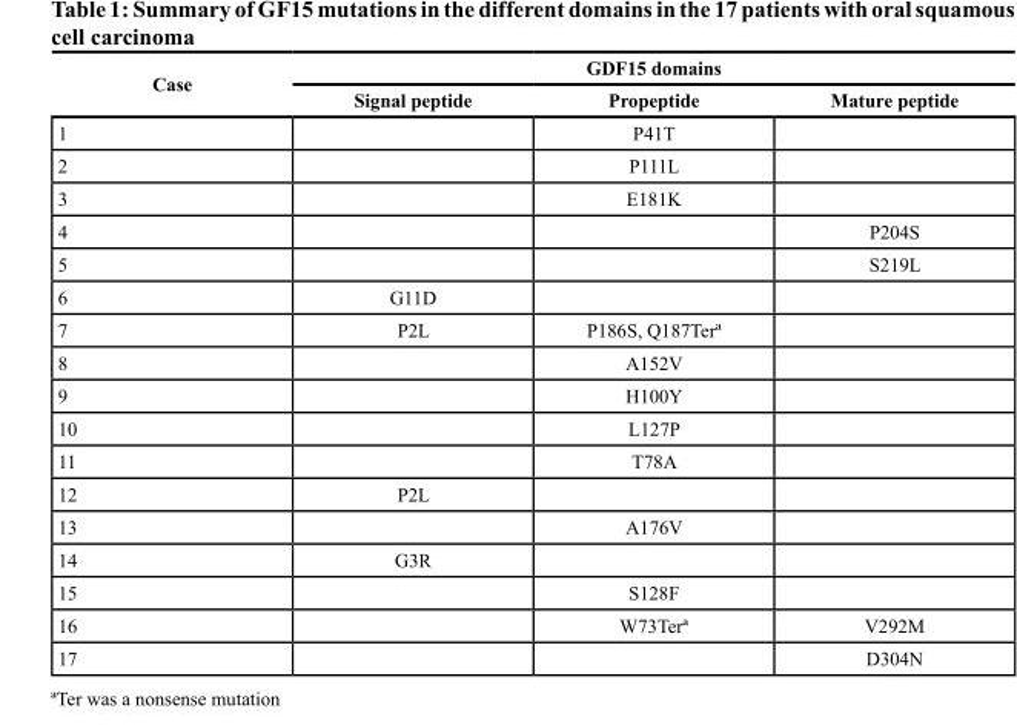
<table><thead><tr><td rowspan="2">Case</td><td colspan="3">GDF15 domains</td></tr><tr><td>Signal peptide</td><td>Propeptide</td><td>Mature peptide</td></tr></thead><tbody><tr><td>1</td><td></td><td>P41T</td><td></td></tr><tr><td>2</td><td></td><td>P111L</td><td></td></tr><tr><td>3</td><td></td><td>E181K</td><td></td></tr><tr><td>4</td><td></td><td></td><td>P204S</td></tr><tr><td>5</td><td></td><td></td><td>S219L</td></tr><tr><td>6</td><td>G11D</td><td></td><td></td></tr><tr><td>7</td><td>P2L</td><td>P186S, Q187Ter<sup>ª</sup></td><td></td></tr><tr><td>8</td><td></td><td>A152V</td><td></td></tr><tr><td>9</td><td></td><td>H100Y</td><td></td></tr><tr><td>10</td><td></td><td>L127P</td><td></td></tr><tr><td>11</td><td></td><td>T78A</td><td></td></tr><tr><td>12</td><td>P2L</td><td></td><td></td></tr><tr><td>13</td><td></td><td>A176V</td><td></td></tr><tr><td>14</td><td>G3R</td><td></td><td></td></tr><tr><td>15</td><td></td><td>S128F</td><td></td></tr><tr><td>16</td><td></td><td>W73Ter<sup>ª</sup></td><td>V292M</td></tr><tr><td>17</td><td></td><td></td><td>D304N</td></tr></tbody></table>